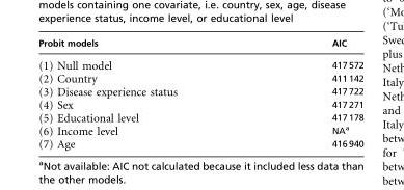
<table><thead><tr><td>Probit models</td><td>AIC</td></tr></thead><tbody><tr><td>(1) Null model</td><td>417 572</td></tr><tr><td>(2) Country</td><td>411 142</td></tr><tr><td>(3) Disease experience status</td><td>417 722</td></tr><tr><td>(4) Sex</td><td>417 271</td></tr><tr><td>(5) Educational level</td><td>417 178</td></tr><tr><td>(6) Income level</td><td>NA<sup>a</sup></td></tr><tr><td>(7) Age</td><td>416 940</td></tr></tbody></table>